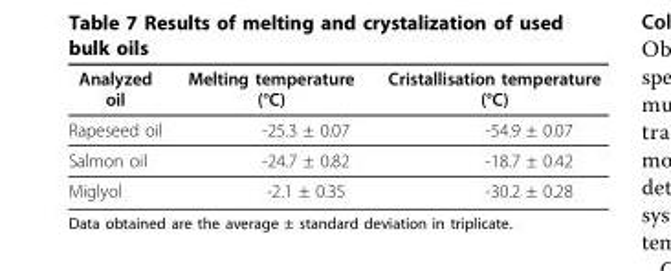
<table><thead><tr><td>Analyzed oil</td><td>Melting temperature (°C)</td><td>Cristallisation temperature (°C)</td></tr></thead><tbody><tr><td>Rapeseed oil</td><td>-25.3 ± 0.07</td><td>-54.9 ± 0.07</td></tr><tr><td>Salmon oil</td><td>-24.7 ± 0.82</td><td>-18.7 ± 0.42</td></tr><tr><td>Miglyol</td><td>-2.1 ± 0.35</td><td>-30.2 ± 0.28</td></tr></tbody></table>